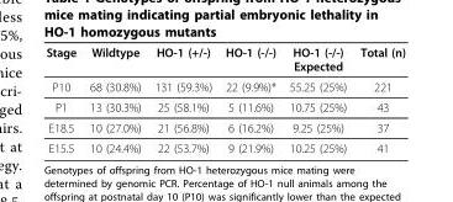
<table><thead><tr><td>Stage</td><td>Wildtype</td><td>HO-1 (+/-)</td><td>HO-1 (-/-)</td><td>HO-1 (-/-) Expected</td><td>Total (n)</td></tr></thead><tbody><tr><td>P10</td><td>68 (30.8%)</td><td>131 (59.3%)</td><td>22 (9.9%)*</td><td>55.25 (25%)</td><td>221</td></tr><tr><td>P1</td><td>13 (30.3%)</td><td>25 (58.1%)</td><td>5 (11.6%)</td><td>10.75 (25%)</td><td>43</td></tr><tr><td>E18.5</td><td>10 (27.0%)</td><td>21 (56.8%)</td><td>6 (16.2%)</td><td>9.25 (25%)</td><td>37</td></tr><tr><td>E15.5</td><td>10 (24.4%)</td><td>22 (53.7%)</td><td>9 (21.9%)</td><td>10.25 (25%)</td><td>41</td></tr></tbody></table>